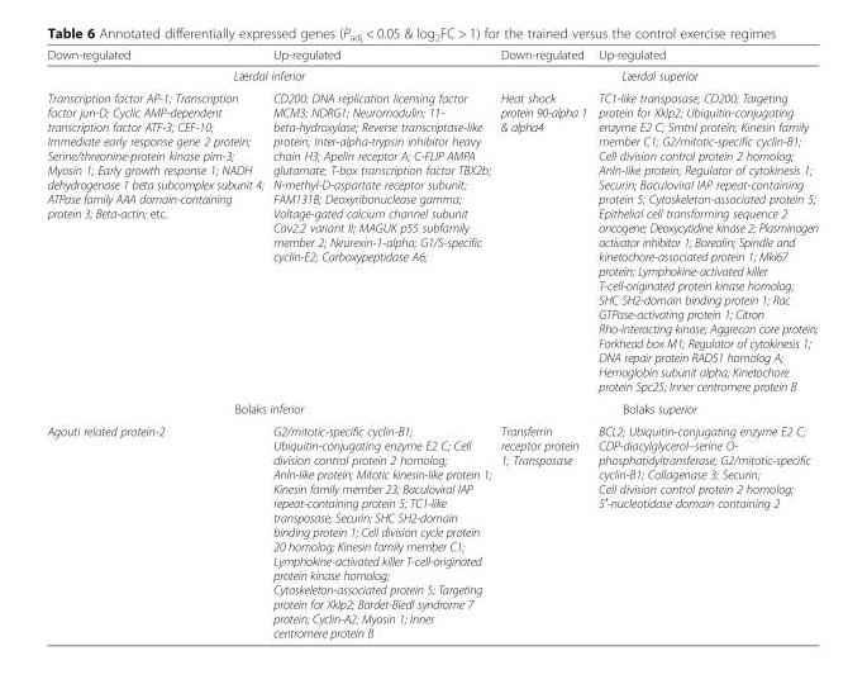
<table><thead><tr><td>Down-regulated</td><td>Up-regulated</td><td>Down-regulated</td><td>Up-regulated</td></tr></thead><tbody><tr><td colspan="2">Lærdal inferior</td><td colspan="2">Lærdal superior</td></tr><tr><td>Transcription factor AP-1; Transcription factor jun-D; Cyclic AMP-dependent transcription factor ATF-3; CEF-10; Immediate early response gene 2 protein; Serine/threonine-protein kinase pim-3; Myosin 1; Early growth response 1; NADH dehydrogenase 1 beta subcomplex subunit 4; ATPase family AAA domain-containing protein 3; Beta-actin; etc.</td><td>CD200; DNA replication licensing factor MCM3; NDRG1; Neuromodulin; 11- beta-hydroxylase; Reverse transcriptase-like protein; Inter-alpha-trypsin inhibitor heavy chain H3; Apelin receptor A; C-FLIP AMPA glutamate; T-box transcription factor TBX2b; N-methyl-D-aspartate receptor subunit; FAM131B; Deoxyribonuclease gamma; Voltage-gated calcium channel subunit Cav2.2 variant II; MAGUK p55 subfamily member 2; Neurexin-1-alpha; G1/S-specific cyclin-E2; Carboxypeptidase A6;</td><td>Heat shock protein 90-alpha 1 &amp; alpha4</td><td>TC1-like transposase; CD200; Targeting protein for Xklp2; Ubiquitin-conjugating enzyme E2 C; Smtnl protein; Kinesin family member C1; G2/mitotic-specific cyclin-B1; Cell division control protein 2 homolog; Anln-like protein; Regulator of cytokinesis 1; Securin; Baculoviral IAP repeat-containing protein 5; Cytoskeleton-associated protein 5; Epithelial cell transforming sequence 2 oncogene; Deoxycytidine kinase 2; Plasminogen activator inhibitor 1; Borealin; Spindle and kinetochore-associated protein 1; Mki67 protein; Lymphokine-activated killer T-cell-originated protein kinase homolog; SHC SH2-domain binding protein 1; Rac GTPase-activating protein 1; Citron Rho-interacting kinase; Aggrecan core protein; Forkhead box M1; Regulator of cytokinesis 1; DNA repair protein RAD51 homolog A; Hemoglobin subunit alpha; Kinetochore protein Spc25; Inner centromere protein B</td></tr><tr><td colspan="2">Bolaks inferior</td><td colspan="2">Bolaks superior</td></tr><tr><td>Agouti related protein-2</td><td>G2/mitotic-specific cyclin-B1; Ubiquitin-conjugating enzyme E2 C; Cell division control protein 2 homolog; Anln-like protein; Mitotic kinesin-like protein 1; Kinesin family member 23; Baculoviral IAP repeat-containing protein 5; TC1-like transposase; Securin; SHC SH2-domain binding protein 1; Cell division cycle protein 20 homolog; Kinesin family member C1; Lymphokine-activated killer T-cell-originated protein kinase homolog; Cytoskeleton-associated protein 5; Targeting protein for Xklp2; Bardet-Biedl syndrome 7 protein; Cyclin-A2; Myosin 1; Inner centromere protein B</td><td>Transferrin receptor protein 1; Transposase</td><td>BCL2; Ubiquitin-conjugating enzyme E2 C; CDP-diacylglycerol–serine O- phosphatidyltransferase; G2/mitotic-specific cyclin-B1; Collagenase 3; Securin; Cell division control protein 2 homolog; 5′-nucleotidase domain containing 2</td></tr></tbody></table>